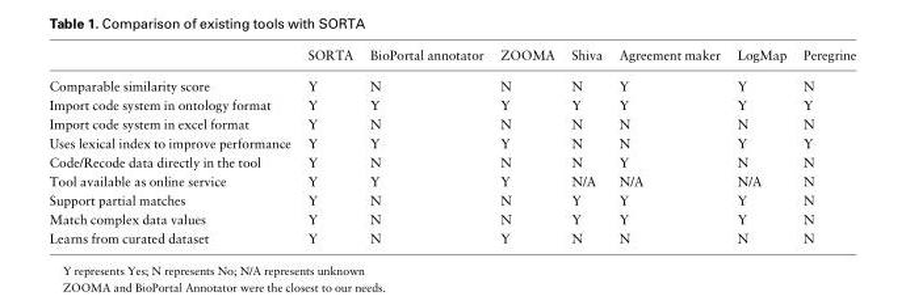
<table><thead><tr><td></td><td>SORTA</td><td>BioPortal annotator</td><td>ZOOMA</td><td>Shiva</td><td>Agreement maker</td><td>LogMap</td><td>Peregrine</td></tr></thead><tbody><tr><td>Comparable similarity score</td><td>Y</td><td>N</td><td>N</td><td>N</td><td>Y</td><td>Y</td><td>N</td></tr><tr><td>Import code system in ontology format</td><td>Y</td><td>Y</td><td>Y</td><td>Y</td><td>Y</td><td>Y</td><td>Y</td></tr><tr><td>Import code system in excel format</td><td>Y</td><td>N</td><td>N</td><td>N</td><td>N</td><td>N</td><td>N</td></tr><tr><td>Uses lexical index to improve performance</td><td>Y</td><td>Y</td><td>Y</td><td>N</td><td>N</td><td>Y</td><td>Y</td></tr><tr><td>Code/Recode data directly in the tool</td><td>Y</td><td>N</td><td>N</td><td>N</td><td>Y</td><td>N</td><td>N</td></tr><tr><td>Tool available as online service</td><td>Y</td><td>Y</td><td>Y</td><td>N/A</td><td>N/A</td><td>N/A</td><td>N</td></tr><tr><td>Support partial matches</td><td>Y</td><td>N</td><td>N</td><td>Y</td><td>Y</td><td>Y</td><td>N</td></tr><tr><td>Match complex data values</td><td>Y</td><td>N</td><td>N</td><td>Y</td><td>Y</td><td>Y</td><td>N</td></tr><tr><td>Learns from curated dataset</td><td>Y</td><td>N</td><td>Y</td><td>N</td><td>N</td><td>N</td><td>N</td></tr></tbody></table>